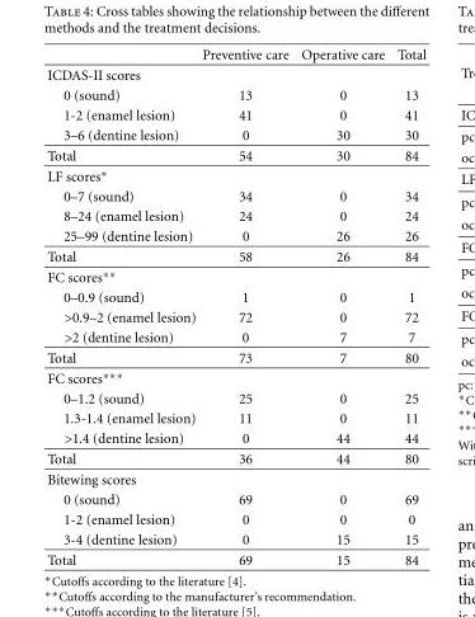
<table><thead><tr><td></td><td>Preventive care</td><td>Operative care</td><td>Total</td></tr></thead><tbody><tr><td colspan="4">ICDAS-II scores</td></tr><tr><td>0 (sound)</td><td>13</td><td>0</td><td>13</td></tr><tr><td>1-2 (enamel lesion)</td><td>41</td><td>0</td><td>41</td></tr><tr><td>3–6 (dentine lesion)</td><td>0</td><td>30</td><td>30</td></tr><tr><td>Total</td><td>54</td><td>30</td><td>84</td></tr><tr><td colspan="4">LF scores∗</td></tr><tr><td>0–7 (sound)</td><td>34</td><td>0</td><td>34</td></tr><tr><td>8–24 (enamel lesion)</td><td>24</td><td>0</td><td>24</td></tr><tr><td>25–99 (dentine lesion)</td><td>0</td><td>26</td><td>26</td></tr><tr><td>Total</td><td>58</td><td>26</td><td>84</td></tr><tr><td colspan="4">FC scores∗∗</td></tr><tr><td>0–0.9 (sound)</td><td>1</td><td>0</td><td>1</td></tr><tr><td>&gt;0.9–2 (enamel lesion)</td><td>72</td><td>0</td><td>72</td></tr><tr><td>&gt;2 (dentine lesion)</td><td>0</td><td>7</td><td>7</td></tr><tr><td>Total</td><td>73</td><td>7</td><td>80</td></tr><tr><td colspan="4">FC scores∗∗∗</td></tr><tr><td>0–1.2 (sound)</td><td>25</td><td>0</td><td>25</td></tr><tr><td>1.3-1.4 (enamel lesion)</td><td>11</td><td>0</td><td>11</td></tr><tr><td>&gt;1.4 (dentine lesion)</td><td>0</td><td>44</td><td>44</td></tr><tr><td>Total</td><td>36</td><td>44</td><td>80</td></tr><tr><td colspan="4">Bitewing scores</td></tr><tr><td>0 (sound)</td><td>69</td><td>0</td><td>69</td></tr><tr><td>1-2 (enamel lesion)</td><td>0</td><td>0</td><td>0</td></tr><tr><td>3-4 (dentine lesion)</td><td>0</td><td>15</td><td>15</td></tr><tr><td>Total</td><td>69</td><td>15</td><td>84</td></tr></tbody></table>